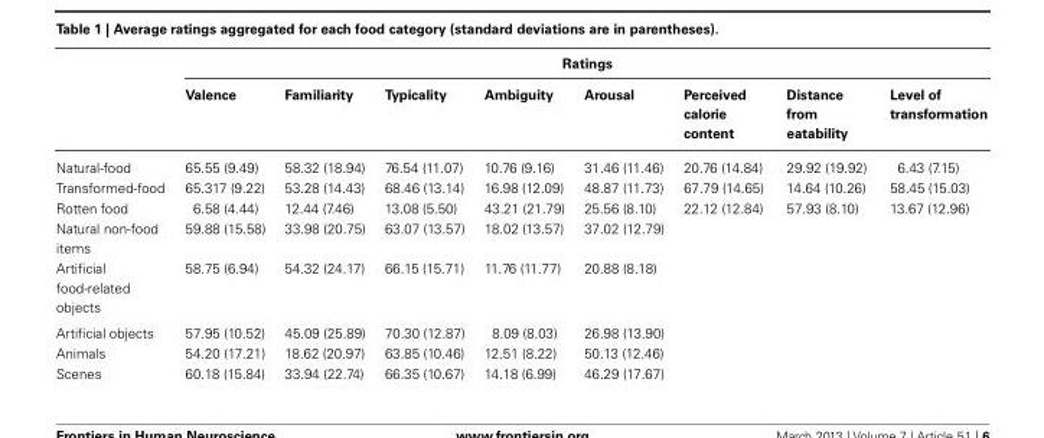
<table><thead><tr><td rowspan="2"></td><td colspan="8">Ratings</td></tr><tr><td>Valence</td><td>Familiarity</td><td>Typicality</td><td>Ambiguity</td><td>Arousal</td><td>Perceived calorie content</td><td>Distance from eatability</td><td>Level of transformation</td></tr></thead><tbody><tr><td>Natural-food</td><td>65.55 (9.49)</td><td>58.32 (18.94)</td><td>76.54 (11.07)</td><td>10.76 (9.16)</td><td>31.46 (11.46)</td><td>20.76 (14.84)</td><td>29.92 (19.92)</td><td>6.43 (7.15)</td></tr><tr><td>Transformed-food</td><td>65.317 (9.22)</td><td>53.28 (14.43)</td><td>68.46 (13.14)</td><td>16.98 (12.09)</td><td>48.87 (11.73)</td><td>67.79 (14.65)</td><td>14.64 (10.26)</td><td>58.45 (15.03)</td></tr><tr><td>Rotten food</td><td>6.58 (4.44)</td><td>12.44 (7.46)</td><td>13.08 (5.50)</td><td>43.21 (21.79)</td><td>25.56 (8.10)</td><td>22.12 (12.84)</td><td>57.93 (8.10)</td><td>13.67 (12.96)</td></tr><tr><td>Natural non-food items</td><td>59.88 (15.58)</td><td>33.98 (20.75)</td><td>63.07 (13.57)</td><td>18.02 (13.57)</td><td>37.02 (12.79)</td><td></td><td></td><td></td></tr><tr><td>Artificial food-related objects</td><td>58.75 (6.94)</td><td>54.32 (24.17)</td><td>66.15 (15.71)</td><td>11.76 (11.77)</td><td>20.88 (8.18)</td><td></td><td></td><td></td></tr><tr><td>Artificial objects</td><td>57.95 (10.52)</td><td>45.09 (25.89)</td><td>70.30 (12.87)</td><td>8.09 (8.03)</td><td>26.98 (13.90)</td><td></td><td></td><td></td></tr><tr><td>Animals</td><td>54.20 (17.21)</td><td>18.62 (20.97)</td><td>63.85 (10.46)</td><td>12.51 (8.22)</td><td>50.13 (12.46)</td><td></td><td></td><td></td></tr><tr><td>Scenes</td><td>60.18 (15.84)</td><td>33.94 (22.74)</td><td>66.35 (10.67)</td><td>14.18 (6.99)</td><td>46.29 (17.67)</td><td></td><td></td><td></td></tr></tbody></table>